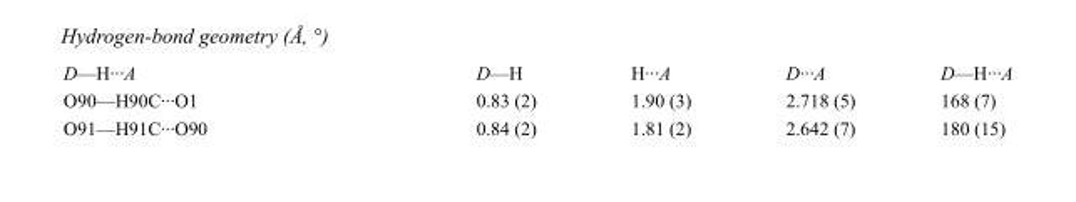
<table><tbody><tr><td>D—H···A</td><td>D—H</td><td>H···A</td><td>D···A</td><td>D—H···A</td></tr><tr><td>O90—H90C···O1</td><td>0.83 (2)</td><td>1.90 (3)</td><td>2.718 (5)</td><td>168 (7)</td></tr><tr><td>O91—H91C···O90</td><td>0.84 (2)</td><td>1.81 (2)</td><td>2.642 (7)</td><td>180 (15)</td></tr></tbody></table>